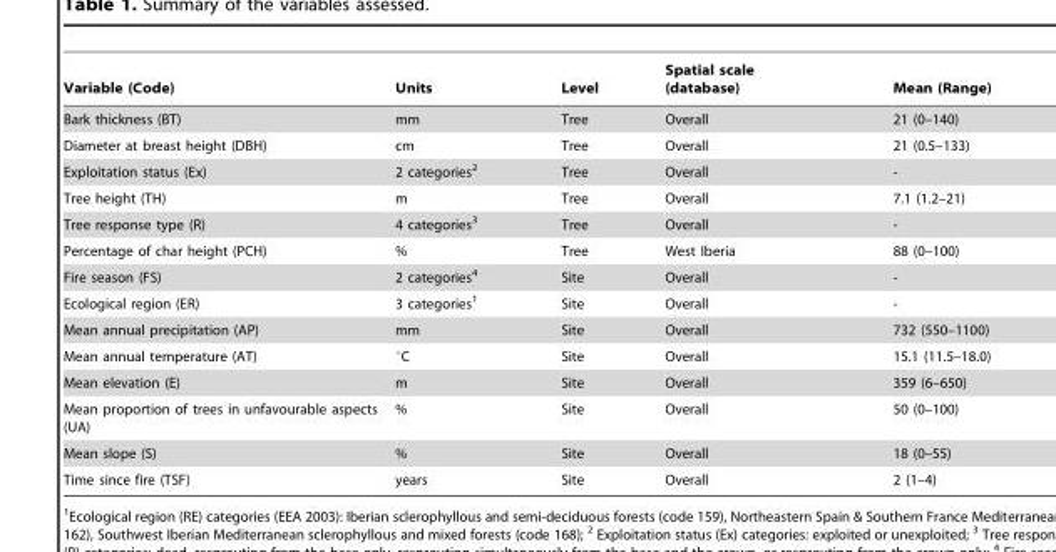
<table><thead><tr><td>Variable (Code)</td><td>Units</td><td>Level</td><td>Spatial scale (database)</td><td>Mean (Range)</td></tr></thead><tbody><tr><td>Bark thickness (BT)</td><td>mm</td><td>Tree</td><td>Overall</td><td>21 (0–140)</td></tr><tr><td>Diameter at breast height (DBH)</td><td>cm</td><td>Tree</td><td>Overall</td><td>21 (0.5–133)</td></tr><tr><td>Exploitation status (Ex)</td><td>2 categories<sup>2</sup></td><td>Tree</td><td>Overall</td><td>-</td></tr><tr><td>Tree height (TH)</td><td>m</td><td>Tree</td><td>Overall</td><td>7.1 (1.2–21)</td></tr><tr><td>Tree response type (R)</td><td>4 categories<sup>3</sup></td><td>Tree</td><td>Overall</td><td>-</td></tr><tr><td>Percentage of char height (PCH)</td><td>%</td><td>Tree</td><td>West Iberia</td><td>88 (0–100)</td></tr><tr><td>Fire season (FS)</td><td>2 categories<sup>4</sup></td><td>Site</td><td>Overall</td><td>-</td></tr><tr><td>Ecological region (ER)</td><td>3 categories<sup>1</sup></td><td>Site</td><td>Overall</td><td>-</td></tr><tr><td>Mean annual precipitation (AP)</td><td>mm</td><td>Site</td><td>Overall</td><td>732 (550–1100)</td></tr><tr><td>Mean annual temperature (AT)</td><td>°C</td><td>Site</td><td>Overall</td><td>15.1 (11.5–18.0)</td></tr><tr><td>Mean elevation (E)</td><td>m</td><td>Site</td><td>Overall</td><td>359 (6–650)</td></tr><tr><td>Mean proportion of trees in unfavourable aspects (UA)</td><td>%</td><td>Site</td><td>Overall</td><td>50 (0–100)</td></tr><tr><td>Mean slope (S)</td><td>%</td><td>Site</td><td>Overall</td><td>18 (0–55)</td></tr><tr><td>Time since fire (TSF)</td><td>years</td><td>Site</td><td>Overall</td><td>2 (1–4)</td></tr></tbody></table>